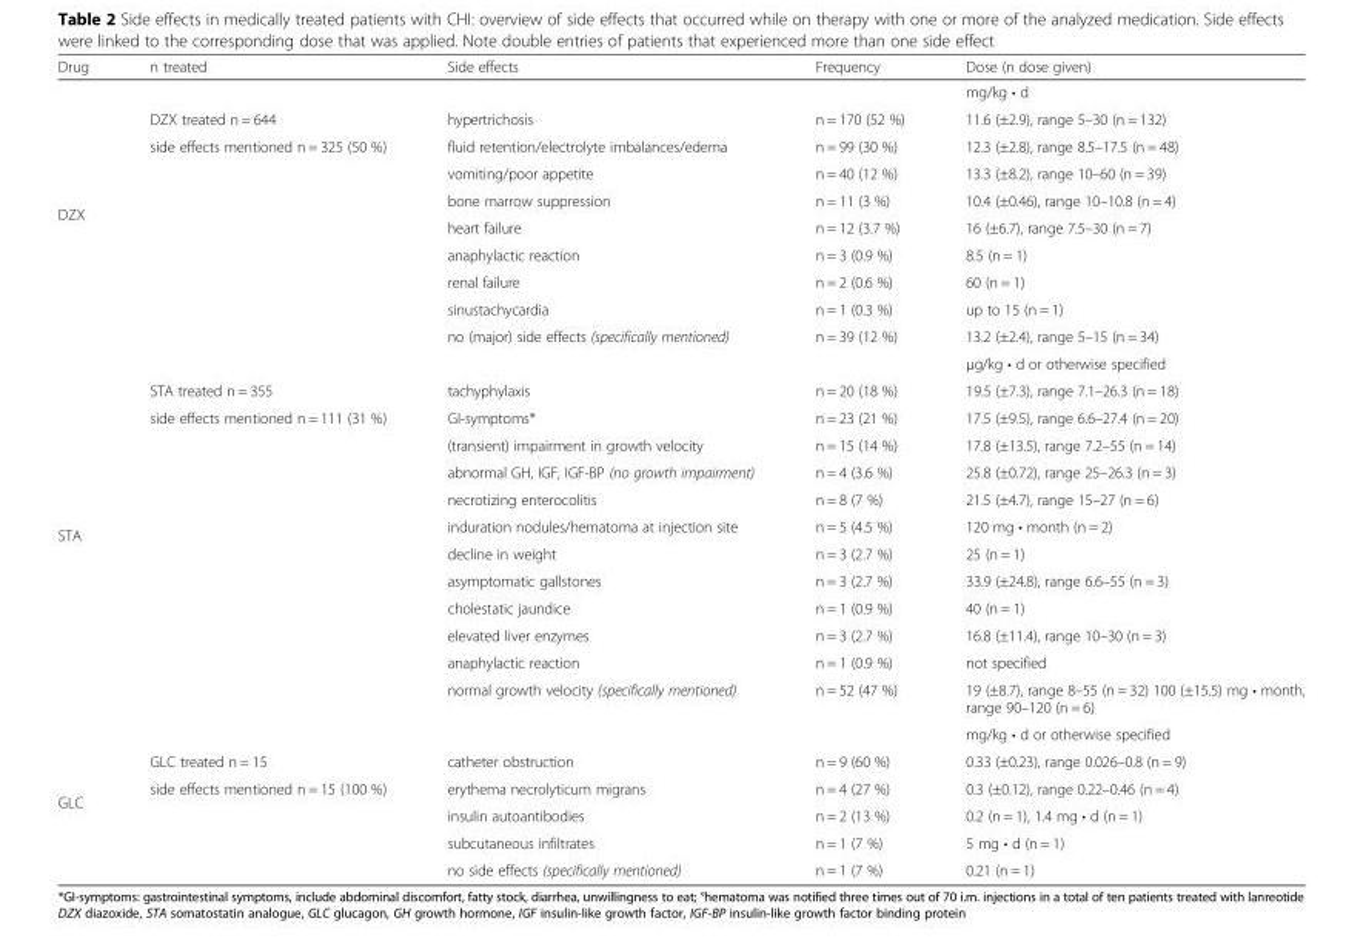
<table><thead><tr><td>Drug</td><td>n treated</td><td>Side effects</td><td>Frequency</td><td>Dose (n dose given)</td></tr></thead><tbody><tr><td rowspan="10">DZX</td><td></td><td></td><td></td><td>mg/kg • d</td></tr><tr><td>DZX treated n = 644</td><td>hypertrichosis</td><td>n = 170 (52 %)</td><td>11.6 (±2.9), range 5–30 (n = 132)</td></tr><tr><td rowspan="8">side effects mentioned n = 325 (50 %)</td><td>fluid retention/electrolyte imbalances/edema</td><td>n = 99 (30 %)</td><td>12.3 (±2.8), range 8.5–17.5 (n = 48)</td></tr><tr><td>vomiting/poor appetite</td><td>n = 40 (12 %)</td><td>13.3 (±8.2), range 10–60 (n = 39)</td></tr><tr><td>bone marrow suppression</td><td>n = 11 (3 %)</td><td>10.4 (±0.46), range 10–10.8 (n = 4)</td></tr><tr><td>heart failure</td><td>n = 12 (3.7 %)</td><td>16 (±6.7), range 7.5–30 (n = 7)</td></tr><tr><td>anaphylactic reaction</td><td>n = 3 (0.9 %)</td><td>8.5 (n = 1)</td></tr><tr><td>renal failure</td><td>n = 2 (0.6 %)</td><td>60 (n = 1)</td></tr><tr><td>sinustachycardia</td><td>n = 1 (0.3 %)</td><td>up to 15 (n = 1)</td></tr><tr><td>no (major) side effects (specifically mentioned)</td><td>n = 39 (12 %)</td><td>13.2 (±2.4), range 5–15 (n = 34)</td></tr><tr><td rowspan="13">STA</td><td></td><td></td><td></td><td>μg/kg • d or otherwise specified</td></tr><tr><td>STA treated n = 355</td><td>tachyphylaxis</td><td>n = 20 (18 %)</td><td>19.5 (±7.3), range 7.1–26.3 (n = 18)</td></tr><tr><td rowspan="11">side effects mentioned n = 111 (31 %)</td><td>GI-symptoms*</td><td>n = 23 (21 %)</td><td>17.5 (±9.5), range 6.6–27.4 (n = 20)</td></tr><tr><td>(transient) impairment in growth velocity</td><td>n = 15 (14 %)</td><td>17.8 (±13.5), range 7.2–55 (n = 14)</td></tr><tr><td>abnormal GH, IGF, IGF-BP (no growth impairment)</td><td>n = 4 (3.6 %)</td><td>25.8 (±0.72), range 25–26.3 (n = 3)</td></tr><tr><td>necrotizing enterocolitis</td><td>n = 8 (7 %)</td><td>21.5 (±4.7), range 15–27 (n = 6)</td></tr><tr><td>induration nodules/hematoma at injection site</td><td>n = 5 (4.5 %)</td><td>120 mg • month (n = 2)</td></tr><tr><td>decline in weight</td><td>n = 3 (2.7 %)</td><td>25 (n = 1)</td></tr><tr><td>asymptomatic gallstones</td><td>n = 3 (2.7 %)</td><td>33.9 (±24.8), range 6.6–55 (n = 3)</td></tr><tr><td>cholestatic jaundice</td><td>n = 1 (0.9 %)</td><td>40 (n = 1)</td></tr><tr><td>elevated liver enzymes</td><td>n = 3 (2.7 %)</td><td>16.8 (±11.4), range 10–30 (n = 3)</td></tr><tr><td>anaphylactic reaction</td><td>n = 1 (0.9 %)</td><td>not specified</td></tr><tr><td>normal growth velocity (specifically mentioned)</td><td>n = 52 (47 %)</td><td>19 (±8.7), range 8–55 (n = 32) 100 (±15.5) mg • month, range 90–120 (n = 6)</td></tr><tr><td rowspan="6">GLC</td><td></td><td></td><td></td><td>mg/kg • d or otherwise specified</td></tr><tr><td>GLC treated n = 15</td><td>catheter obstruction</td><td>n = 9 (60 %)</td><td>0.33 (±0.23), range 0.026–0.8 (n = 9)</td></tr><tr><td rowspan="4">side effects mentioned n = 15 (100 %)</td><td>erythema necrolyticum migrans</td><td>n = 4 (27 %)</td><td>0.3 (±0.12), range 0.22–0.46 (n = 4)</td></tr><tr><td>insulin autoantibodies</td><td>n = 2 (13 %)</td><td>0.2 (n = 1), 1.4 mg • d (n = 1)</td></tr><tr><td>subcutaneous infiltrates</td><td>n = 1 (7 %)</td><td>5 mg • d (n = 1)</td></tr><tr><td>no side effects (specifically mentioned)</td><td>n = 1 (7 %)</td><td>0.21 (n = 1)</td></tr></tbody></table>